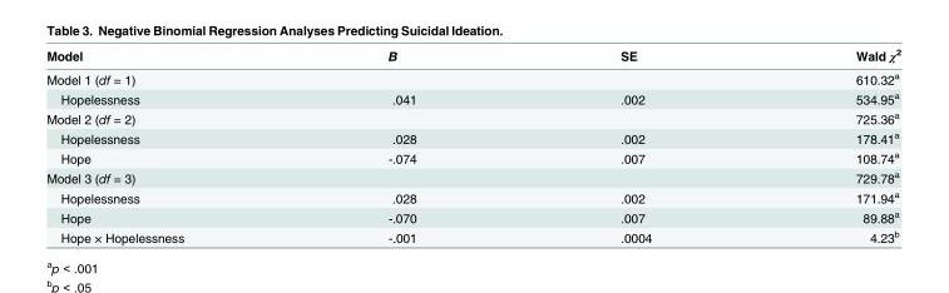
<table><thead><tr><td>Model</td><td>B</td><td>SE</td><td>Wald χ<sup>2</sup></td></tr></thead><tbody><tr><td>Model 1 (df = 1)</td><td></td><td></td><td>610.32<sup>a</sup></td></tr><tr><td>Hopelessness</td><td>.041</td><td>.002</td><td>534.95<sup>a</sup></td></tr><tr><td>Model 2 (df = 2)</td><td></td><td></td><td>725.36<sup>a</sup></td></tr><tr><td>Hopelessness</td><td>.028</td><td>.002</td><td>178.41<sup>a</sup></td></tr><tr><td>Hope</td><td>-.074</td><td>.007</td><td>108.74<sup>a</sup></td></tr><tr><td>Model 3 (df = 3)</td><td></td><td></td><td>729.78<sup>a</sup></td></tr><tr><td>Hopelessness</td><td>.028</td><td>.002</td><td>171.94<sup>a</sup></td></tr><tr><td>Hope</td><td>-.070</td><td>.007</td><td>89.88<sup>a</sup></td></tr><tr><td>Hope × Hopelessness</td><td>-.001</td><td>.0004</td><td>4.23<sup>b</sup></td></tr></tbody></table>